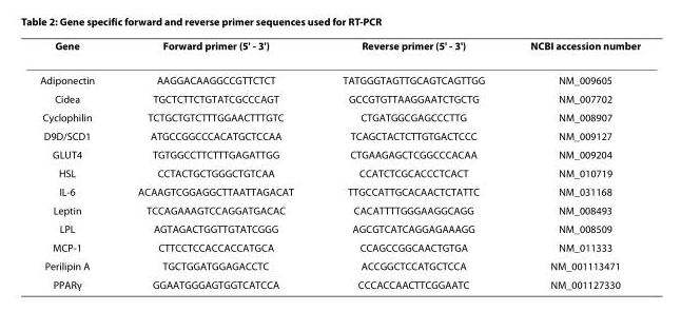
<table><thead><tr><td>Gene</td><td>Forward primer (5&#x27; - 3&#x27;)</td><td>Reverse primer (5&#x27; - 3&#x27;)</td><td>NCBI accession number</td></tr></thead><tbody><tr><td>Adiponectin</td><td>AAGGACAAGGCCGTTCTCT</td><td>TATGGGTAGTTGCAGTCAGTTGG</td><td>NM_009605</td></tr><tr><td>Cidea</td><td>TGCTCTTCTGTATCGCCCAGT</td><td>GCCGTGTTAAGGAATCTGCTG</td><td>NM_007702</td></tr><tr><td>Cyclophilin</td><td>TCTGCTGTCTTTGGAACTTTGTC</td><td>CTGATGGCGAGCCCTTG</td><td>NM_008907</td></tr><tr><td>D9D/SCD1</td><td>ATGCCGGCCCACATGCTCCAA</td><td>TCAGCTACTCTTGTGACTCCC</td><td>NM_009127</td></tr><tr><td>GLUT4</td><td>TGTGGCCTTCTTTGAGATTGG</td><td>CTGAAGAGCTCGGCCCACAA</td><td>NM_009204</td></tr><tr><td>HSL</td><td>CCTACTGCTGGGCTGTCAA</td><td>CCATCTCGCACCCTCACT</td><td>NM_010719</td></tr><tr><td>IL-6</td><td>ACAAGTCGGAGGCTTAATTAGACAT</td><td>TTGCCATTGCACAACTCTATTC</td><td>NM_031168</td></tr><tr><td>Leptin</td><td>TCCAGAAAGTCCAGGATGACAC</td><td>CACATTTTGGGAAGGCAGG</td><td>NM_008493</td></tr><tr><td>LPL</td><td>AGTAGACTGGTTGTATCGGG</td><td>AGCGTCATCAGGAGAAAGG</td><td>NM_008509</td></tr><tr><td>MCP-1</td><td>CTTCCTCCACCACCATGCA</td><td>CCAGCCGGCAACTGTGA</td><td>NM_011333</td></tr><tr><td>Perilipin A</td><td>TGCTGGATGGAGACCTC</td><td>ACCGGCTCCATGCTCCA</td><td>NM_001113471</td></tr><tr><td>PPARγ</td><td>GGAATGGGAGTGGTCATCCA</td><td>CCCACCAACTTCGGAATC</td><td>NM_001127330</td></tr></tbody></table>